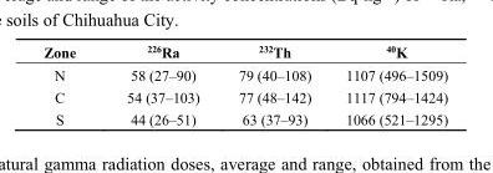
<table><thead><tr><td>Zone</td><td><sup>226</sup>Ra</td><td><sup>232</sup>Th</td><td><sup>40</sup>K</td></tr></thead><tbody><tr><td>N</td><td>58 (27–90)</td><td>79 (40–108)</td><td>1107 (496–1509)</td></tr><tr><td>C</td><td>54 (37–103)</td><td>77 (48–142)</td><td>1117 (794–1424)</td></tr><tr><td>S</td><td>44 (26–51)</td><td>63 (37–93)</td><td>1066 (521–1295)</td></tr></tbody></table>